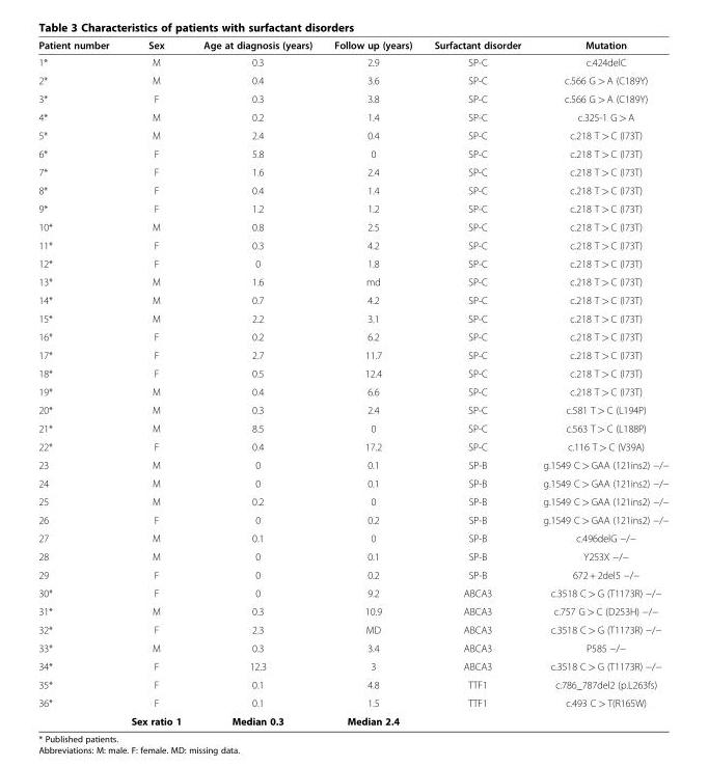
<table><thead><tr><td>Patient number</td><td>Sex</td><td>Age at diagnosis (years)</td><td>Follow up (years)</td><td>Surfactant disorder</td><td>Mutation</td></tr></thead><tbody><tr><td>1*</td><td>M</td><td>0.3</td><td>2.9</td><td>SP-C</td><td>c.424delC</td></tr><tr><td>2*</td><td>M</td><td>0.4</td><td>3.6</td><td>SP-C</td><td>c.566 G &gt; A (C189Y)</td></tr><tr><td>3*</td><td>F</td><td>0.3</td><td>3.8</td><td>SP-C</td><td>c.566 G &gt; A (C189Y)</td></tr><tr><td>4*</td><td>M</td><td>0.2</td><td>1.4</td><td>SP-C</td><td>c.325-1 G &gt; A</td></tr><tr><td>5*</td><td>M</td><td>2.4</td><td>0.4</td><td>SP-C</td><td>c.218 T &gt; C (I73T)</td></tr><tr><td>6*</td><td>F</td><td>5.8</td><td>0</td><td>SP-C</td><td>c.218 T &gt; C (I73T)</td></tr><tr><td>7*</td><td>F</td><td>1.6</td><td>2.4</td><td>SP-C</td><td>c.218 T &gt; C (I73T)</td></tr><tr><td>8*</td><td>F</td><td>0.4</td><td>1.4</td><td>SP-C</td><td>c.218 T &gt; C (I73T)</td></tr><tr><td>9*</td><td>F</td><td>1.2</td><td>1.2</td><td>SP-C</td><td>c.218 T &gt; C (I73T)</td></tr><tr><td>10*</td><td>M</td><td>0.8</td><td>2.5</td><td>SP-C</td><td>c.218 T &gt; C (I73T)</td></tr><tr><td>11*</td><td>F</td><td>0.3</td><td>4.2</td><td>SP-C</td><td>c.218 T &gt; C (I73T)</td></tr><tr><td>12*</td><td>F</td><td>0</td><td>1.8</td><td>SP-C</td><td>c.218 T &gt; C (I73T)</td></tr><tr><td>13*</td><td>M</td><td>1.6</td><td>md</td><td>SP-C</td><td>c.218 T &gt; C (I73T)</td></tr><tr><td>14*</td><td>M</td><td>0.7</td><td>4.2</td><td>SP-C</td><td>c.218 T &gt; C (I73T)</td></tr><tr><td>15*</td><td>M</td><td>2.2</td><td>3.1</td><td>SP-C</td><td>c.218 T &gt; C (I73T)</td></tr><tr><td>16*</td><td>F</td><td>0.2</td><td>6.2</td><td>SP-C</td><td>c.218 T &gt; C (I73T)</td></tr><tr><td>17*</td><td>F</td><td>2.7</td><td>11.7</td><td>SP-C</td><td>c.218 T &gt; C (I73T)</td></tr><tr><td>18*</td><td>F</td><td>0.5</td><td>12.4</td><td>SP-C</td><td>c.218 T &gt; C (I73T)</td></tr><tr><td>19*</td><td>M</td><td>0.4</td><td>6.6</td><td>SP-C</td><td>c.218 T &gt; C (I73T)</td></tr><tr><td>20*</td><td>M</td><td>0.3</td><td>2.4</td><td>SP-C</td><td>c.581 T &gt; C (L194P)</td></tr><tr><td>21*</td><td>M</td><td>8.5</td><td>0</td><td>SP-C</td><td>c.563 T &gt; C (L188P)</td></tr><tr><td>22*</td><td>F</td><td>0.4</td><td>17.2</td><td>SP-C</td><td>c.116 T &gt; C (V39A)</td></tr><tr><td>23</td><td>M</td><td>0</td><td>0.1</td><td>SP-B</td><td>g.1549 C &gt; GAA (121ins2) −/−</td></tr><tr><td>24</td><td>M</td><td>0</td><td>0.1</td><td>SP-B</td><td>g.1549 C &gt; GAA (121ins2) −/−</td></tr><tr><td>25</td><td>M</td><td>0.2</td><td>0</td><td>SP-B</td><td>g.1549 C &gt; GAA (121ins2) −/−</td></tr><tr><td>26</td><td>F</td><td>0</td><td>0.2</td><td>SP-B</td><td>g.1549 C &gt; GAA (121ins2) −/−</td></tr><tr><td>27</td><td>M</td><td>0.1</td><td>0</td><td>SP-B</td><td>c.496delG −/−</td></tr><tr><td>28</td><td>M</td><td>0</td><td>0.1</td><td>SP-B</td><td>Y253X −/−</td></tr><tr><td>29</td><td>F</td><td>0</td><td>0.2</td><td>SP-B</td><td>672 + 2del5 −/−</td></tr><tr><td>30*</td><td>F</td><td>0</td><td>9.2</td><td>ABCA3</td><td>c.3518 C &gt; G (T1173R) −/−</td></tr><tr><td>31*</td><td>M</td><td>0.3</td><td>10.9</td><td>ABCA3</td><td>c.757 G &gt; C (D253H) −/−</td></tr><tr><td>32*</td><td>F</td><td>2.3</td><td>MD</td><td>ABCA3</td><td>c.3518 C &gt; G (T1173R) −/−</td></tr><tr><td>33*</td><td>M</td><td>0.3</td><td>3.4</td><td>ABCA3</td><td>P585 −/−</td></tr><tr><td>34*</td><td>F</td><td>12.3</td><td>3</td><td>ABCA3</td><td>c.3518 C &gt; G (T1173R) −/−</td></tr><tr><td>35*</td><td>F</td><td>0.1</td><td>4.8</td><td>TTF1</td><td>c.786_787del2 (p.L263fs)</td></tr><tr><td rowspan="2">36*</td><td>F</td><td>0.1</td><td>1.5</td><td>TTF1</td><td>c.493 C &gt; T(R165W)</td></tr><tr><td>Sex ratio 1</td><td>Median 0.3</td><td>Median 2.4</td><td></td><td></td></tr></tbody></table>